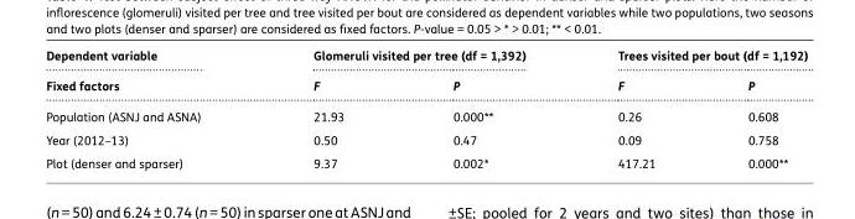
<table><thead><tr><td rowspan="2">Dependent variable Fixed factors</td><td colspan="2">Glomeruli visited per tree (df = 1,392)</td><td colspan="2">Trees visited per bout (df = 1,192)</td></tr><tr><td>F</td><td>P</td><td>F</td><td>P</td></tr></thead><tbody><tr><td>Population (ASNJ and ASNA)</td><td>21.93</td><td>0.000**</td><td>0.26</td><td>0.608</td></tr><tr><td>Year (2012–13)</td><td>0.50</td><td>0.47</td><td>0.09</td><td>0.758</td></tr><tr><td>Plot (denser and sparser)</td><td>9.37</td><td>0.002*</td><td>417.21</td><td>0.000**</td></tr></tbody></table>